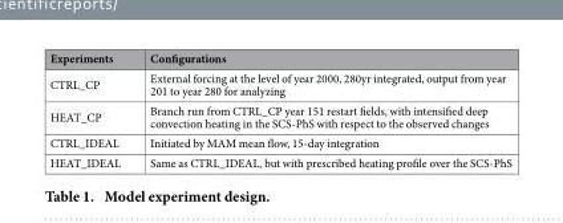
<table><thead><tr><td>Experiments</td><td>Configurations</td></tr></thead><tbody><tr><td>CTRL_CP</td><td>External forcing at the level of year 2000, 280yr integrated, output from year 201 to year 280 for analyzing</td></tr><tr><td>HEAT_CP</td><td>Branch run from CTRL_CP year 151 restart fields, with intensified deep convection heating in the SCS-PhS with respect to the observed changes</td></tr><tr><td>CTRL_IDEAL</td><td>Initiated by MAM mean flow, 15-day integration</td></tr><tr><td>HEAT_IDEAL</td><td>Same as CTRL_IDEAL, but with prescribed heating profile over the SCS-PhS</td></tr></tbody></table>